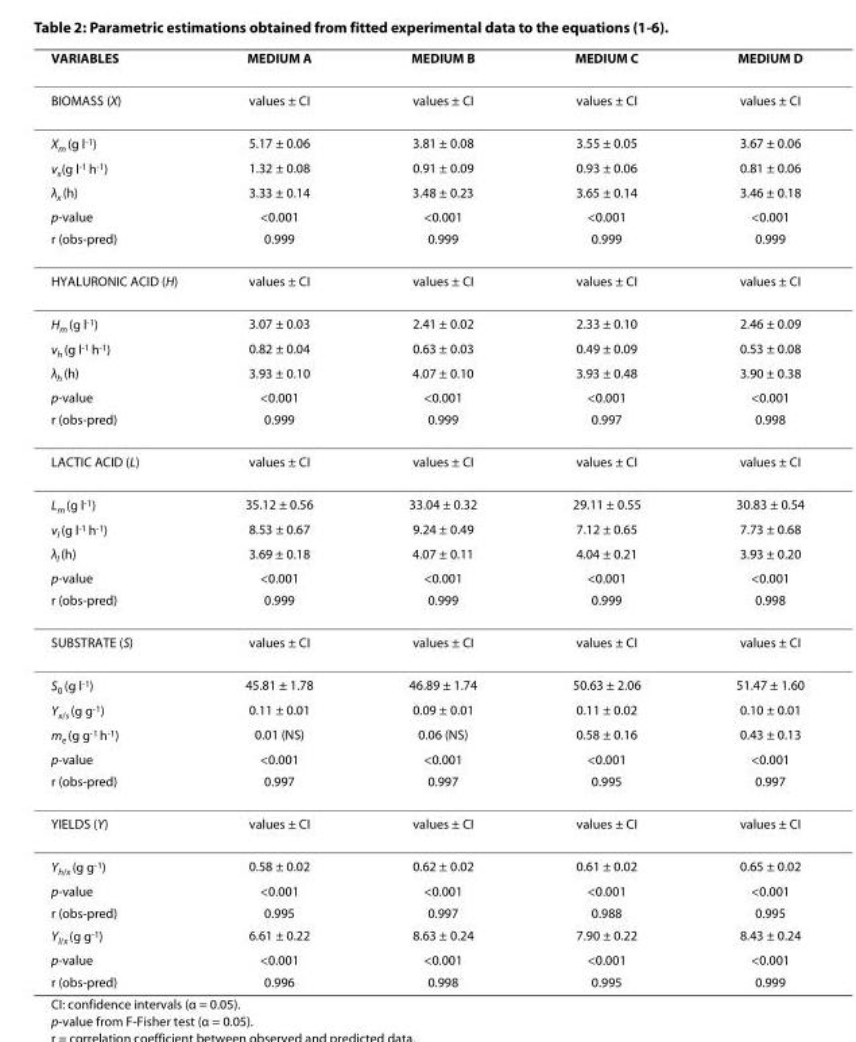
<table><thead><tr><td>VARIABLES</td><td>MEDIUM A</td><td>MEDIUM B</td><td>MEDIUM C</td><td>MEDIUM D</td></tr></thead><tbody><tr><td>BIOMASS (X)</td><td>values ± CI</td><td>values ± CI</td><td>values ± CI</td><td>values ± CI</td></tr><tr><td>X<sub>m</sub> (g l<sup>-1</sup>)</td><td>5.17 ± 0.06</td><td>3.81 ± 0.08</td><td>3.55 ± 0.05</td><td>3.67 ± 0.06</td></tr><tr><td>v<sub>x</sub>(g l<sup>-1</sup> h<sup>-1</sup>)</td><td>1.32 ± 0.08</td><td>0.91 ± 0.09</td><td>0.93 ± 0.06</td><td>0.81 ± 0.06</td></tr><tr><td>λ<sub>x</sub> (h)</td><td>3.33 ± 0.14</td><td>3.48 ± 0.23</td><td>3.65 ± 0.14</td><td>3.46 ± 0.18</td></tr><tr><td>p-value</td><td>&lt;0.001</td><td>&lt;0.001</td><td>&lt;0.001</td><td>&lt;0.001</td></tr><tr><td>r (obs-pred)</td><td>0.999</td><td>0.999</td><td>0.999</td><td>0.999</td></tr><tr><td>HYALURONIC ACID (H)</td><td>values ± CI</td><td>values ± CI</td><td>values ± CI</td><td>values ± CI</td></tr><tr><td>H<sub>m</sub> (g l<sup>-1</sup>)</td><td>3.07 ± 0.03</td><td>2.41 ± 0.02</td><td>2.33 ± 0.10</td><td>2.46 ± 0.09</td></tr><tr><td>v<sub>h</sub> (g l<sup>-1</sup> h<sup>-1</sup>)</td><td>0.82 ± 0.04</td><td>0.63 ± 0.03</td><td>0.49 ± 0.09</td><td>0.53 ± 0.08</td></tr><tr><td>λ<sub>h</sub> (h)</td><td>3.93 ± 0.10</td><td>4.07 ± 0.10</td><td>3.93 ± 0.48</td><td>3.90 ± 0.38</td></tr><tr><td>p-value</td><td>&lt;0.001</td><td>&lt;0.001</td><td>&lt;0.001</td><td>&lt;0.001</td></tr><tr><td>r (obs-pred)</td><td>0.999</td><td>0.999</td><td>0.997</td><td>0.998</td></tr><tr><td>LACTIC ACID (L)</td><td>values ± CI</td><td>values ± CI</td><td>values ± CI</td><td>values ± CI</td></tr><tr><td>L<sub>m</sub> (g l<sup>-1</sup>)</td><td>35.12 ± 0.56</td><td>33.04 ± 0.32</td><td>29.11 ± 0.55</td><td>30.83 ± 0.54</td></tr><tr><td>v<sub>l</sub> (g l<sup>-1</sup> h<sup>-1</sup>)</td><td>8.53 ± 0.67</td><td>9.24 ± 0.49</td><td>7.12 ± 0.65</td><td>7.73 ± 0.68</td></tr><tr><td>λ<sub>l</sub> (h)</td><td>3.69 ± 0.18</td><td>4.07 ± 0.11</td><td>4.04 ± 0.21</td><td>3.93 ± 0.20</td></tr><tr><td>p-value</td><td>&lt;0.001</td><td>&lt;0.001</td><td>&lt;0.001</td><td>&lt;0.001</td></tr><tr><td>r (obs-pred)</td><td>0.999</td><td>0.999</td><td>0.999</td><td>0.998</td></tr><tr><td>SUBSTRATE (S)</td><td>values ± CI</td><td>values ± CI</td><td>values ± CI</td><td>values ± CI</td></tr><tr><td>S<sub>0</sub> (g l<sup>-1</sup>)</td><td>45.81 ± 1.78</td><td>46.89 ± 1.74</td><td>50.63 ± 2.06</td><td>51.47 ± 1.60</td></tr><tr><td>Y<sub>x/s</sub> (g g<sup>-1</sup>)</td><td>0.11 ± 0.01</td><td>0.09 ± 0.01</td><td>0.11 ± 0.02</td><td>0.10 ± 0.01</td></tr><tr><td>m<sub>e</sub> (g g<sup>-1</sup> h<sup>-1</sup>)</td><td>0.01 (NS)</td><td>0.06 (NS)</td><td>0.58 ± 0.16</td><td>0.43 ± 0.13</td></tr><tr><td>p-value</td><td>&lt;0.001</td><td>&lt;0.001</td><td>&lt;0.001</td><td>&lt;0.001</td></tr><tr><td>r (obs-pred)</td><td>0.997</td><td>0.997</td><td>0.995</td><td>0.997</td></tr><tr><td>YIELDS (Y)</td><td>values ± CI</td><td>values ± CI</td><td>values ± CI</td><td>values ± CI</td></tr><tr><td>Y<sub>h/x</sub> (g g<sup>-1</sup>)</td><td>0.58 ± 0.02</td><td>0.62 ± 0.02</td><td>0.61 ± 0.02</td><td>0.65 ± 0.02</td></tr><tr><td>p-value</td><td>&lt;0.001</td><td>&lt;0.001</td><td>&lt;0.001</td><td>&lt;0.001</td></tr><tr><td>r (obs-pred)</td><td>0.995</td><td>0.997</td><td>0.988</td><td>0.995</td></tr><tr><td>Y<sub>l/x</sub> (g g<sup>-1</sup>)</td><td>6.61 ± 0.22</td><td>8.63 ± 0.24</td><td>7.90 ± 0.22</td><td>8.43 ± 0.24</td></tr><tr><td>p-value</td><td>&lt;0.001</td><td>&lt;0.001</td><td>&lt;0.001</td><td>&lt;0.001</td></tr><tr><td>r (obs-pred)</td><td>0.996</td><td>0.998</td><td>0.995</td><td>0.999</td></tr></tbody></table>